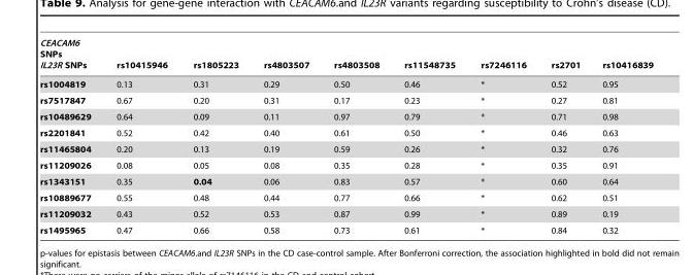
<table><thead><tr><td>CEACAM6 SNPs IL23R SNPs</td><td>rs10415946</td><td>rs1805223</td><td>rs4803507</td><td>rs4803508</td><td>rs11548735</td><td>rs7246116</td><td>rs2701</td><td>rs10416839</td></tr></thead><tbody><tr><td>rs1004819</td><td>0.13</td><td>0.31</td><td>0.29</td><td>0.50</td><td>0.46</td><td>*</td><td>0.52</td><td>0.95</td></tr><tr><td>rs7517847</td><td>0.67</td><td>0.20</td><td>0.31</td><td>0.17</td><td>0.23</td><td>*</td><td>0.27</td><td>0.81</td></tr><tr><td>rs10489629</td><td>0.64</td><td>0.09</td><td>0.11</td><td>0.97</td><td>0.79</td><td>*</td><td>0.71</td><td>0.98</td></tr><tr><td>rs2201841</td><td>0.52</td><td>0.42</td><td>0.40</td><td>0.61</td><td>0.50</td><td>*</td><td>0.46</td><td>0.63</td></tr><tr><td>rs11465804</td><td>0.20</td><td>0.13</td><td>0.19</td><td>0.59</td><td>0.26</td><td>*</td><td>0.32</td><td>0.76</td></tr><tr><td>rs11209026</td><td>0.08</td><td>0.05</td><td>0.08</td><td>0.35</td><td>0.28</td><td>*</td><td>0.35</td><td>0.91</td></tr><tr><td>rs1343151</td><td>0.35</td><td>0.04</td><td>0.06</td><td>0.83</td><td>0.57</td><td>*</td><td>0.60</td><td>0.64</td></tr><tr><td>rs10889677</td><td>0.55</td><td>0.48</td><td>0.44</td><td>0.77</td><td>0.66</td><td>*</td><td>0.62</td><td>0.51</td></tr><tr><td>rs11209032</td><td>0.43</td><td>0.52</td><td>0.53</td><td>0.87</td><td>0.99</td><td>*</td><td>0.89</td><td>0.19</td></tr><tr><td>rs1495965</td><td>0.47</td><td>0.66</td><td>0.58</td><td>0.73</td><td>0.61</td><td>*</td><td>0.84</td><td>0.32</td></tr></tbody></table>